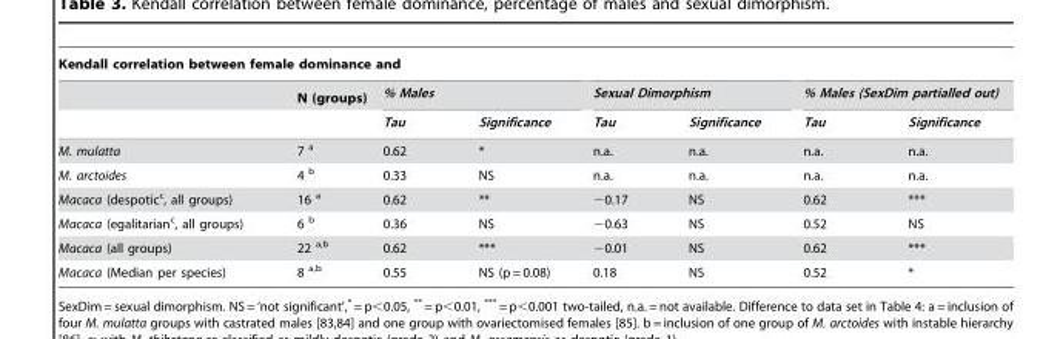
<table><thead><tr><td colspan="8">Kendall correlation between female dominance and</td></tr><tr><td rowspan="2"></td><td rowspan="2">N (groups)</td><td colspan="2">% Males</td><td colspan="2">Sexual Dimorphism</td><td colspan="2">% Males (SexDim partialled out)</td></tr><tr><td>Tau</td><td>Significance</td><td>Tau</td><td>Significance</td><td>Tau</td><td>Significance</td></tr></thead><tbody><tr><td>M. mulatta</td><td>7 <sup>a</sup></td><td>0.62</td><td>*</td><td>n.a.</td><td>n.a.</td><td>n.a.</td><td>n.a.</td></tr><tr><td>M. arctoides</td><td>4 <sup>b</sup></td><td>0.33</td><td>NS</td><td>n.a.</td><td>n.a.</td><td>n.a.</td><td>n.a.</td></tr><tr><td>Macaca (despotic<sup>c</sup>, all groups)</td><td>16 <sup>a</sup></td><td>0.62</td><td>**</td><td>−0.17</td><td>NS</td><td>0.62</td><td>***</td></tr><tr><td>Macaca (egalitarian<sup>c</sup>, all groups)</td><td>6 <sup>b</sup></td><td>0.36</td><td>NS</td><td>−0.63</td><td>NS</td><td>0.52</td><td>NS</td></tr><tr><td>Macaca (all groups)</td><td>22 <sup>a,b</sup></td><td>0.62</td><td>***</td><td>−0.01</td><td>NS</td><td>0.62</td><td>***</td></tr><tr><td>Macaca (Median per species)</td><td>8 <sup>a,b</sup></td><td>0.55</td><td>NS (p = 0.08)</td><td>0.18</td><td>NS</td><td>0.52</td><td>*</td></tr></tbody></table>